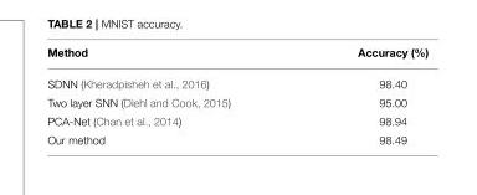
<table><thead><tr><td>Method</td><td>Accuracy (%)</td></tr></thead><tbody><tr><td>SDNN (Kheradpisheh et al., 2016)</td><td>98.40</td></tr><tr><td>Two layer SNN (Diehl and Cook, 2015)</td><td>95.00</td></tr><tr><td>PCA-Net (Chan et al., 2014)</td><td>98.94</td></tr><tr><td>Our method</td><td>98.49</td></tr></tbody></table>